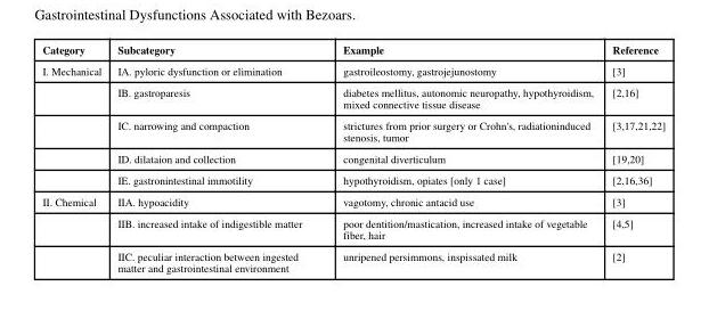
<table><thead><tr><td>Category</td><td>Subcategory</td><td>Example</td><td>Reference</td></tr></thead><tbody><tr><td rowspan="5">I. Mechanical</td><td>IA. pyloric dysfunction or elimination</td><td>gastroileostomy, gastrojejunostomy</td><td>[3]</td></tr><tr><td>IB. gastroparesis</td><td>diabetes mellitus, autonomic neuropathy, hypothyroidism, mixed connective tissue disease</td><td>[2,16]</td></tr><tr><td>IC. narrowing and compaction</td><td>strictures from prior surgery or Crohn&#x27;s, radiationinduced stenosis, tumor</td><td>[3,17,21,22]</td></tr><tr><td>ID. dilataion and collection</td><td>congenital diverticulum</td><td>[19,20]</td></tr><tr><td>IE. gastronintestinal immotility</td><td>hypothyroidism, opiates [only 1 case]</td><td>[2,16,36]</td></tr><tr><td rowspan="3">II. Chemical</td><td>IIA. hypoacidity</td><td>vagotomy, chronic antacid use</td><td>[3]</td></tr><tr><td>IIB. increased intake of indigestible matter</td><td>poor dentition/mastication, increased intake of vegetable fiber, hair</td><td>[4,5]</td></tr><tr><td>IIC. peculiar interaction between ingested matter and gastrointestinal environment</td><td>unripened persimmons, inspissated milk</td><td>[2]</td></tr></tbody></table>